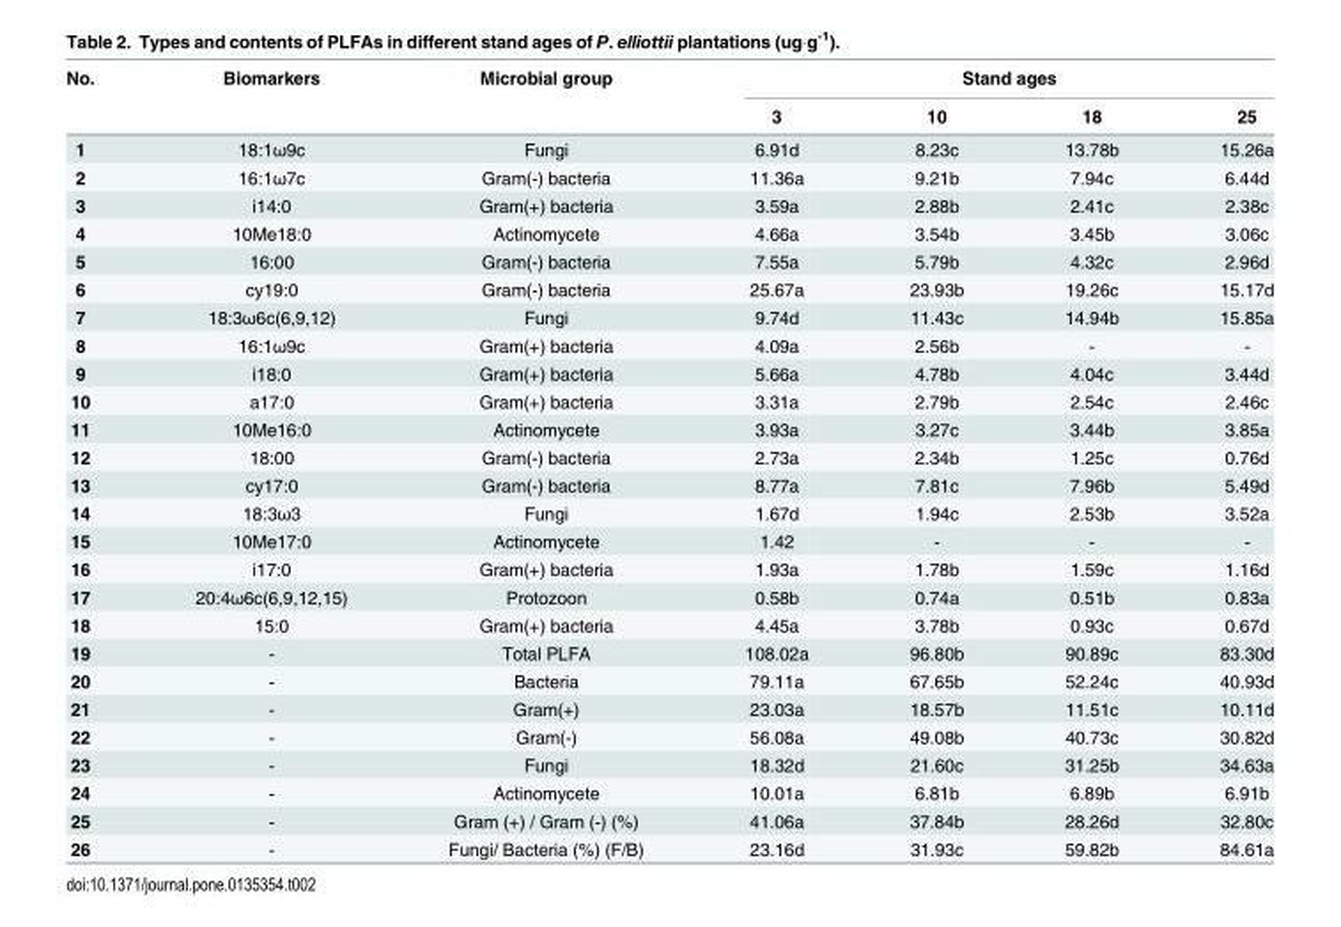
<table><thead><tr><td rowspan="2">No.</td><td rowspan="2">Biomarkers</td><td rowspan="2">Microbial group</td><td colspan="4">Stand ages</td></tr><tr><td>3</td><td>10</td><td>18</td><td>25</td></tr></thead><tbody><tr><td>1</td><td>18:1ω9c</td><td>Fungi</td><td>6.91d</td><td>8.23c</td><td>13.78b</td><td>15.26a</td></tr><tr><td>2</td><td>16:1ω7c</td><td>Gram(-) bacteria</td><td>11.36a</td><td>9.21b</td><td>7.94c</td><td>6.44d</td></tr><tr><td>3</td><td>i14:0</td><td>Gram(+) bacteria</td><td>3.59a</td><td>2.88b</td><td>2.41c</td><td>2.38c</td></tr><tr><td>4</td><td>10Me18:0</td><td>Actinomycete</td><td>4.66a</td><td>3.54b</td><td>3.45b</td><td>3.06c</td></tr><tr><td>5</td><td>16:00</td><td>Gram(-) bacteria</td><td>7.55a</td><td>5.79b</td><td>4.32c</td><td>2.96d</td></tr><tr><td>6</td><td>cy19:0</td><td>Gram(-) bacteria</td><td>25.67a</td><td>23.93b</td><td>19.26c</td><td>15.17d</td></tr><tr><td>7</td><td>18:3ω6c(6,9,12)</td><td>Fungi</td><td>9.74d</td><td>11.43c</td><td>14.94b</td><td>15.85a</td></tr><tr><td>8</td><td>16:1ω9c</td><td>Gram(+) bacteria</td><td>4.09a</td><td>2.56b</td><td>-</td><td>-</td></tr><tr><td>9</td><td>i18:0</td><td>Gram(+) bacteria</td><td>5.66a</td><td>4.78b</td><td>4.04c</td><td>3.44d</td></tr><tr><td>10</td><td>a17:0</td><td>Gram(+) bacteria</td><td>3.31a</td><td>2.79b</td><td>2.54c</td><td>2.46c</td></tr><tr><td>11</td><td>10Me16:0</td><td>Actinomycete</td><td>3.93a</td><td>3.27c</td><td>3.44b</td><td>3.85a</td></tr><tr><td>12</td><td>18:00</td><td>Gram(-) bacteria</td><td>2.73a</td><td>2.34b</td><td>1.25c</td><td>0.76d</td></tr><tr><td>13</td><td>cy17:0</td><td>Gram(-) bacteria</td><td>8.77a</td><td>7.81c</td><td>7.96b</td><td>5.49d</td></tr><tr><td>14</td><td>18:3ω3</td><td>Fungi</td><td>1.67d</td><td>1.94c</td><td>2.53b</td><td>3.52a</td></tr><tr><td>15</td><td>10Me17:0</td><td>Actinomycete</td><td>1.42</td><td>-</td><td>-</td><td>-</td></tr><tr><td>16</td><td>i17:0</td><td>Gram(+) bacteria</td><td>1.93a</td><td>1.78b</td><td>1.59c</td><td>1.16d</td></tr><tr><td>17</td><td>20:4ω6c(6,9,12,15)</td><td>Protozoon</td><td>0.58b</td><td>0.74a</td><td>0.51b</td><td>0.83a</td></tr><tr><td>18</td><td>15:0</td><td>Gram(+) bacteria</td><td>4.45a</td><td>3.78b</td><td>0.93c</td><td>0.67d</td></tr><tr><td>19</td><td>-</td><td>Total PLFA</td><td>108.02a</td><td>96.80b</td><td>90.89c</td><td>83.30d</td></tr><tr><td>20</td><td>-</td><td>Bacteria</td><td>79.11a</td><td>67.65b</td><td>52.24c</td><td>40.93d</td></tr><tr><td>21</td><td>-</td><td>Gram(+)</td><td>23.03a</td><td>18.57b</td><td>11.51c</td><td>10.11d</td></tr><tr><td>22</td><td>-</td><td>Gram(-)</td><td>56.08a</td><td>49.08b</td><td>40.73c</td><td>30.82d</td></tr><tr><td>23</td><td>-</td><td>Fungi</td><td>18.32d</td><td>21.60c</td><td>31.25b</td><td>34.63a</td></tr><tr><td>24</td><td>-</td><td>Actinomycete</td><td>10.01a</td><td>6.81b</td><td>6.89b</td><td>6.91b</td></tr><tr><td>25</td><td>-</td><td>Gram (+) / Gram (-) (%)</td><td>41.06a</td><td>37.84b</td><td>28.26d</td><td>32.80c</td></tr><tr><td>26</td><td>-</td><td>Fungi/ Bacteria (%) (F/B)</td><td>23.16d</td><td>31.93c</td><td>59.82b</td><td>84.61a</td></tr></tbody></table>